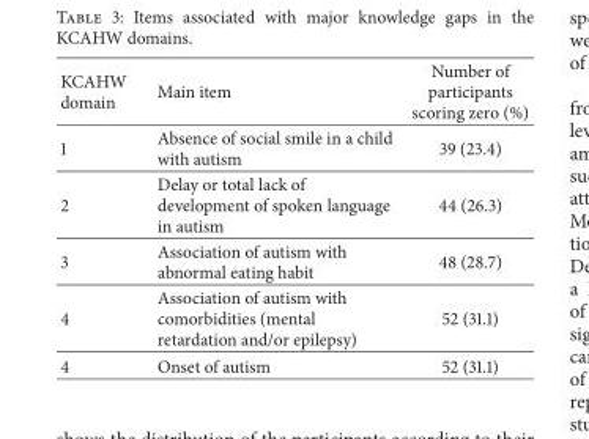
<table><thead><tr><td>KCAHW domain</td><td>Main item</td><td>Number of participants scoring zero (%)</td></tr></thead><tbody><tr><td>1</td><td>Absence of social smile in a child with autism</td><td>39 (23.4)</td></tr><tr><td>2</td><td>Delay or total lack of development of spoken language in autism</td><td>44 (26.3)</td></tr><tr><td>3</td><td>Association of autism with abnormal eating habit</td><td>48 (28.7)</td></tr><tr><td>4</td><td>Association of autism with comorbidities (mental retardation and/or epilepsy)</td><td>52 (31.1)</td></tr><tr><td>4</td><td>Onset of autism</td><td>52 (31.1)</td></tr></tbody></table>